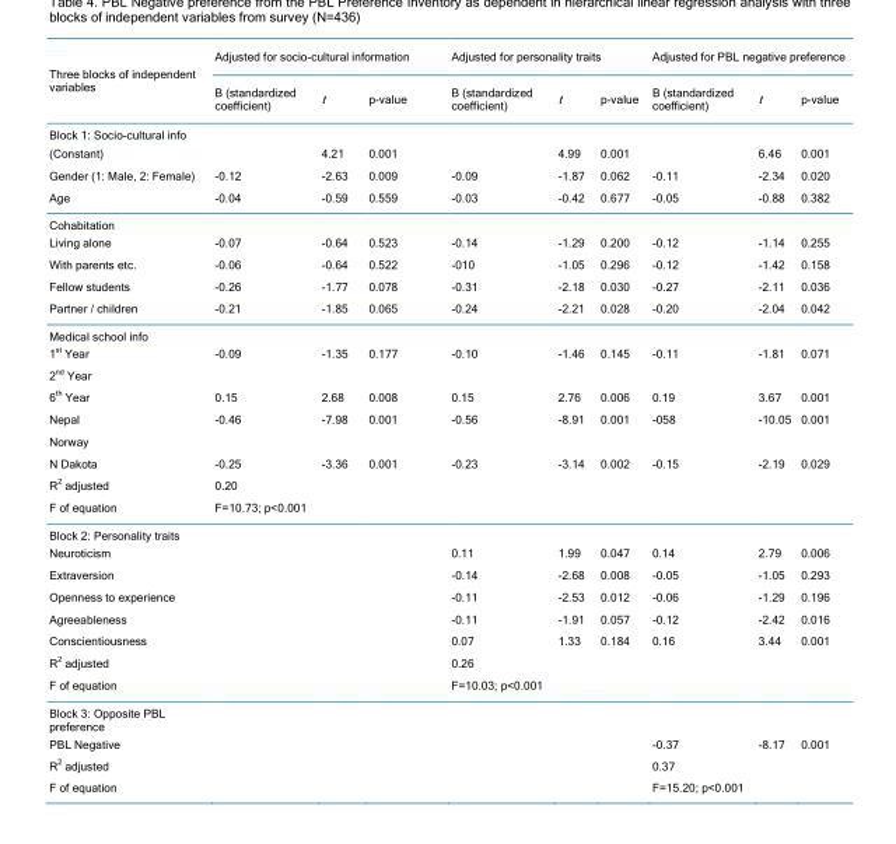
<table><thead><tr><td rowspan="2">Three blocks of independent variables</td><td colspan="3">Adjusted for socio-cultural information</td><td colspan="3">Adjusted for personality traits</td><td colspan="3">Adjusted for PBL negative preference</td></tr><tr><td>Β (standardized coefficient)</td><td>t</td><td>p-value</td><td>Β (standardized coefficient)</td><td>t</td><td>p-value</td><td>Β (standardized coefficient)</td><td>t</td><td>p-value</td></tr></thead><tbody><tr><td colspan="10">Block 1: Socio-cultural info</td></tr><tr><td>(Constant)</td><td></td><td>4.21</td><td>0.001</td><td></td><td>4.99</td><td>0.001</td><td></td><td>6.46</td><td>0.001</td></tr><tr><td>Gender (1: Male, 2: Female)</td><td>-0.12</td><td>-2.63</td><td>0.009</td><td>-0.09</td><td>-1.87</td><td>0.062</td><td>-0.11</td><td>-2.34</td><td>0.020</td></tr><tr><td>Age</td><td>-0.04</td><td>-0.59</td><td>0.559</td><td>-0.03</td><td>-0.42</td><td>0.677</td><td>-0.05</td><td>-0.88</td><td>0.382</td></tr><tr><td colspan="10">Cohabitation</td></tr><tr><td>Living alone</td><td>-0.07</td><td>-0.64</td><td>0.523</td><td>-0.14</td><td>-1.29</td><td>0.200</td><td>-0.12</td><td>-1.14</td><td>0.255</td></tr><tr><td>With parents etc.</td><td>-0.06</td><td>-0.64</td><td>0.522</td><td>-010</td><td>-1.05</td><td>0.296</td><td>-0.12</td><td>-1.42</td><td>0.158</td></tr><tr><td>Fellow students</td><td>-0.26</td><td>-1.77</td><td>0.078</td><td>-0.31</td><td>-2.18</td><td>0.030</td><td>-0.27</td><td>-2.11</td><td>0.036</td></tr><tr><td>Partner / children</td><td>-0.21</td><td>-1.85</td><td>0.065</td><td>-0.24</td><td>-2.21</td><td>0.028</td><td>-0.20</td><td>-2.04</td><td>0.042</td></tr><tr><td colspan="10">Medical school info</td></tr><tr><td>1<sup>st</sup> Year</td><td>-0.09</td><td>-1.35</td><td>0.177</td><td>-0.10</td><td>-1.46</td><td>0.145</td><td>-0.11</td><td>-1.81</td><td>0.071</td></tr><tr><td colspan="10">2<sup>nd</sup> Year</td></tr><tr><td>6<sup>th</sup> Year</td><td>0.15</td><td>2.68</td><td>0.008</td><td>0.15</td><td>2.76</td><td>0.006</td><td>0.19</td><td>3.67</td><td>0.001</td></tr><tr><td>Nepal</td><td>-0.46</td><td>-7.98</td><td>0.001</td><td>-0.56</td><td>-8.91</td><td>0.001</td><td>-058</td><td>-10.05</td><td>0.001</td></tr><tr><td colspan="10">Norway</td></tr><tr><td>N Dakota</td><td>-0.25</td><td>-3.36</td><td>0.001</td><td>-0.23</td><td>-3.14</td><td>0.002</td><td>-0.15</td><td>-2.19</td><td>0.029</td></tr><tr><td>R<sup>2</sup> adjusted</td><td>0.20</td><td></td><td></td><td></td><td></td><td></td><td></td><td></td><td></td></tr><tr><td>F of equation</td><td>F=10.73; p&lt;0.001</td><td></td><td></td><td></td><td></td><td></td><td></td><td></td><td></td></tr><tr><td colspan="10">Block 2: Personality traits</td></tr><tr><td>Neuroticism</td><td></td><td></td><td></td><td>0.11</td><td>1.99</td><td>0.047</td><td>0.14</td><td>2.79</td><td>0.006</td></tr><tr><td>Extraversion</td><td></td><td></td><td></td><td>-0.14</td><td>-2.68</td><td>0.008</td><td>-0.05</td><td>-1.05</td><td>0.293</td></tr><tr><td>Openness to experience</td><td></td><td></td><td></td><td>-0.11</td><td>-2.53</td><td>0.012</td><td>-0.06</td><td>-1.29</td><td>0.196</td></tr><tr><td>Agreeableness</td><td></td><td></td><td></td><td>-0.11</td><td>-1.91</td><td>0.057</td><td>-0.12</td><td>-2.42</td><td>0.016</td></tr><tr><td>Conscientiousness</td><td></td><td></td><td></td><td>0.07</td><td>1.33</td><td>0.184</td><td>0.16</td><td>3.44</td><td>0.001</td></tr><tr><td>R<sup>2</sup> adjusted</td><td></td><td></td><td></td><td>0.26</td><td></td><td></td><td></td><td></td><td></td></tr><tr><td>F of equation</td><td></td><td></td><td></td><td>F=10.03; p&lt;0.001</td><td></td><td></td><td></td><td></td><td></td></tr><tr><td colspan="10">Block 3: Opposite PBL preference</td></tr><tr><td>PBL Negative</td><td></td><td></td><td></td><td></td><td></td><td></td><td>-0.37</td><td>-8.17</td><td>0.001</td></tr><tr><td>R<sup>2</sup> adjusted</td><td></td><td></td><td></td><td></td><td></td><td></td><td>0.37</td><td></td><td></td></tr><tr><td>F of equation</td><td></td><td></td><td></td><td></td><td></td><td></td><td>F=15.20; p&lt;0.001</td><td></td><td></td></tr></tbody></table>